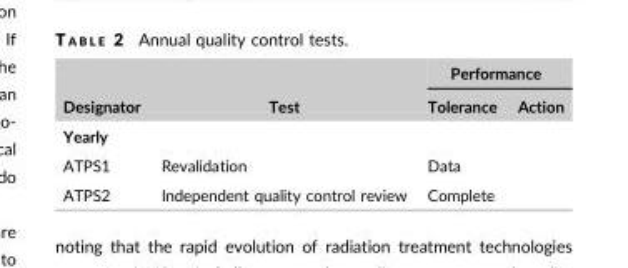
<table><thead><tr><td rowspan="2">Designator</td><td rowspan="2">Test</td><td colspan="2">Performance</td></tr><tr><td>Tolerance</td><td>Action</td></tr></thead><tbody><tr><td colspan="4">Yearly</td></tr><tr><td>ATPS1</td><td>Revalidation</td><td colspan="2">Data</td></tr><tr><td>ATPS2</td><td>Independent quality control review</td><td colspan="2">Complete</td></tr></tbody></table>